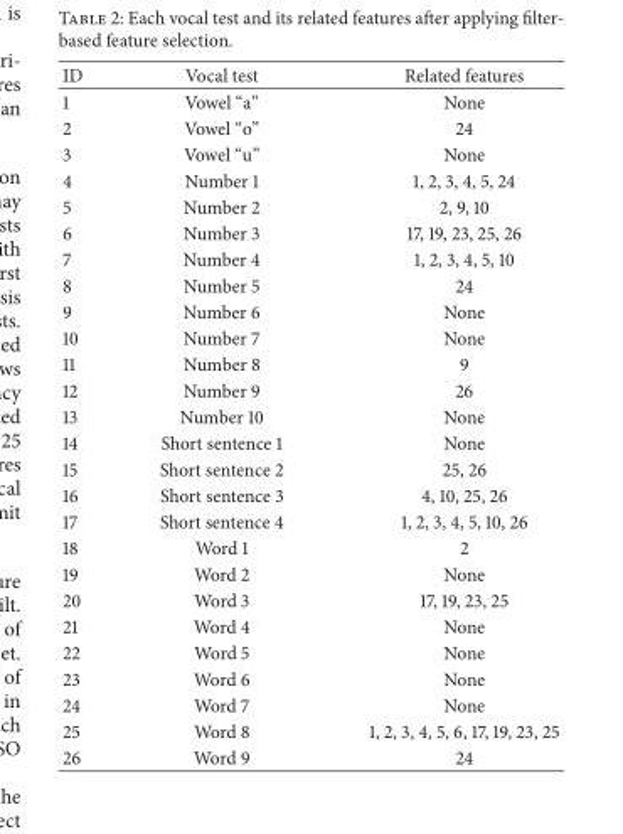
<table><thead><tr><td>ID</td><td>Vocal test</td><td>Related features</td></tr></thead><tbody><tr><td>1</td><td>Vowel “a”</td><td>None</td></tr><tr><td>2</td><td>Vowel “o”</td><td>24</td></tr><tr><td>3</td><td>Vowel “u”</td><td>None</td></tr><tr><td>4</td><td>Number 1</td><td>1, 2, 3, 4, 5, 24</td></tr><tr><td>5</td><td>Number 2</td><td>2, 9, 10</td></tr><tr><td>6</td><td>Number 3</td><td>17, 19, 23, 25, 26</td></tr><tr><td>7</td><td>Number 4</td><td>1, 2, 3, 4, 5, 10</td></tr><tr><td>8</td><td>Number 5</td><td>24</td></tr><tr><td>9</td><td>Number 6</td><td>None</td></tr><tr><td>10</td><td>Number 7</td><td>None</td></tr><tr><td>11</td><td>Number 8</td><td>9</td></tr><tr><td>12</td><td>Number 9</td><td>26</td></tr><tr><td>13</td><td>Number 10</td><td>None</td></tr><tr><td>14</td><td>Short sentence 1</td><td>None</td></tr><tr><td>15</td><td>Short sentence 2</td><td>25, 26</td></tr><tr><td>16</td><td>Short sentence 3</td><td>4, 10, 25, 26</td></tr><tr><td>17</td><td>Short sentence 4</td><td>1, 2, 3, 4, 5, 10, 26</td></tr><tr><td>18</td><td>Word 1</td><td>2</td></tr><tr><td>19</td><td>Word 2</td><td>None</td></tr><tr><td>20</td><td>Word 3</td><td>17, 19, 23, 25</td></tr><tr><td>21</td><td>Word 4</td><td>None</td></tr><tr><td>22</td><td>Word 5</td><td>None</td></tr><tr><td>23</td><td>Word 6</td><td>None</td></tr><tr><td>24</td><td>Word 7</td><td>None</td></tr><tr><td>25</td><td>Word 8</td><td>1, 2, 3, 4, 5, 6, 17, 19, 23, 25</td></tr><tr><td>26</td><td>Word 9</td><td>24</td></tr></tbody></table>